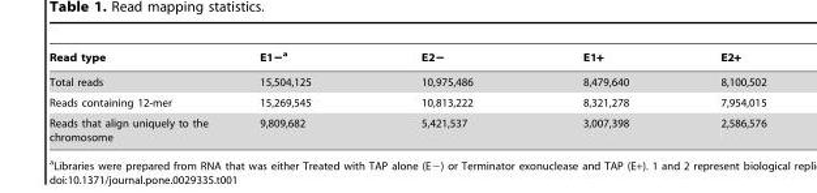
<table><thead><tr><td>Read type</td><td>E1−a</td><td>E2−</td><td>E1+</td><td>E2+</td></tr></thead><tbody><tr><td>Total reads</td><td>15,504,125</td><td>10,975,486</td><td>8,479,640</td><td>8,100,502</td></tr><tr><td>Reads containing 12-mer</td><td>15,269,545</td><td>10,813,222</td><td>8,321,278</td><td>7,954,015</td></tr><tr><td>Reads that align uniquely to the chromosome</td><td>9,809,682</td><td>5,421,537</td><td>3,007,398</td><td>2,586,576</td></tr></tbody></table>